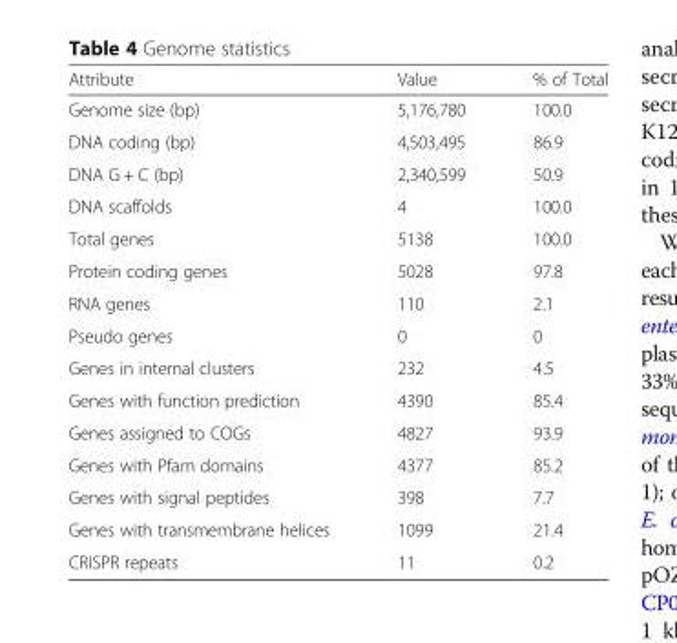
<table><thead><tr><td>Attribute</td><td>Value</td><td>% of Total</td></tr></thead><tbody><tr><td>Genome size (bp)</td><td>5,176,780</td><td>100.0</td></tr><tr><td>DNA coding (bp)</td><td>4,503,495</td><td>86.9</td></tr><tr><td>DNA G + C (bp)</td><td>2,340,599</td><td>50.9</td></tr><tr><td>DNA scaffolds</td><td>4</td><td>100.0</td></tr><tr><td>Total genes</td><td>5138</td><td>100.0</td></tr><tr><td>Protein coding genes</td><td>5028</td><td>97.8</td></tr><tr><td>RNA genes</td><td>110</td><td>2.1</td></tr><tr><td>Pseudo genes</td><td>0</td><td>0</td></tr><tr><td>Genes in internal clusters</td><td>232</td><td>4.5</td></tr><tr><td>Genes with function prediction</td><td>4390</td><td>85.4</td></tr><tr><td>Genes assigned to COGs</td><td>4827</td><td>93.9</td></tr><tr><td>Genes with Pfam domains</td><td>4377</td><td>85.2</td></tr><tr><td>Genes with signal peptides</td><td>398</td><td>7.7</td></tr><tr><td>Genes with transmembrane helices</td><td>1099</td><td>21.4</td></tr><tr><td>CRISPR repeats</td><td>11</td><td>0.2</td></tr></tbody></table>